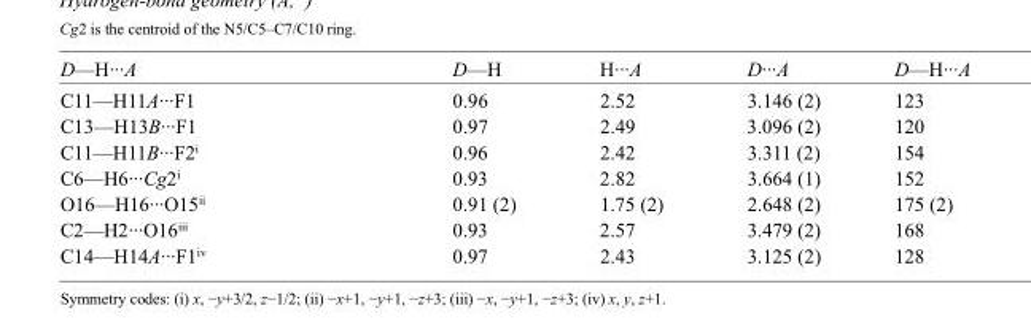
<table><tbody><tr><td>D—H···A</td><td>D—H</td><td>H···A</td><td>D···A</td><td>D—H···A</td></tr><tr><td>C11—H11A···F1</td><td>0.96</td><td>2.52</td><td>3.146 (2)</td><td>123</td></tr><tr><td>C13—H13B···F1</td><td>0.97</td><td>2.49</td><td>3.096 (2)</td><td>120</td></tr><tr><td>C11—H11B···F2<sup>i</sup></td><td>0.96</td><td>2.42</td><td>3.311 (2)</td><td>154</td></tr><tr><td>C6—H6···Cg2<sup>i</sup></td><td>0.93</td><td>2.82</td><td>3.664 (1)</td><td>152</td></tr><tr><td>O16—H16···O15<sup>ii</sup></td><td>0.91 (2)</td><td>1.75 (2)</td><td>2.648 (2)</td><td>175 (2)</td></tr><tr><td>C2—H2···O16<sup>iii</sup></td><td>0.93</td><td>2.57</td><td>3.479 (2)</td><td>168</td></tr><tr><td>C14—H14A···F1<sup>iv</sup></td><td>0.97</td><td>2.43</td><td>3.125 (2)</td><td>128</td></tr></tbody></table>